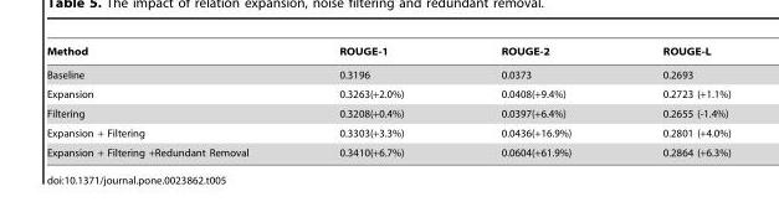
<table><thead><tr><td>Method</td><td>ROUGE-1</td><td>ROUGE-2</td><td>ROUGE-L</td></tr></thead><tbody><tr><td>Baseline</td><td>0.3196</td><td>0.0373</td><td>0.2693</td></tr><tr><td>Expansion</td><td>0.3263(+2.0%)</td><td>0.0408(+9.4%)</td><td>0.2723 (+1.1%)</td></tr><tr><td>Filtering</td><td>0.3208(+0.4%)</td><td>0.0397(+6.4%)</td><td>0.2655 (-1.4%)</td></tr><tr><td>Expansion + Filtering</td><td>0.3303(+3.3%)</td><td>0.0436(+16.9%)</td><td>0.2801 (+4.0%)</td></tr><tr><td>Expansion + Filtering +Redundant Removal</td><td>0.3410(+6.7%)</td><td>0.0604(+61.9%)</td><td>0.2864 (+6.3%)</td></tr></tbody></table>